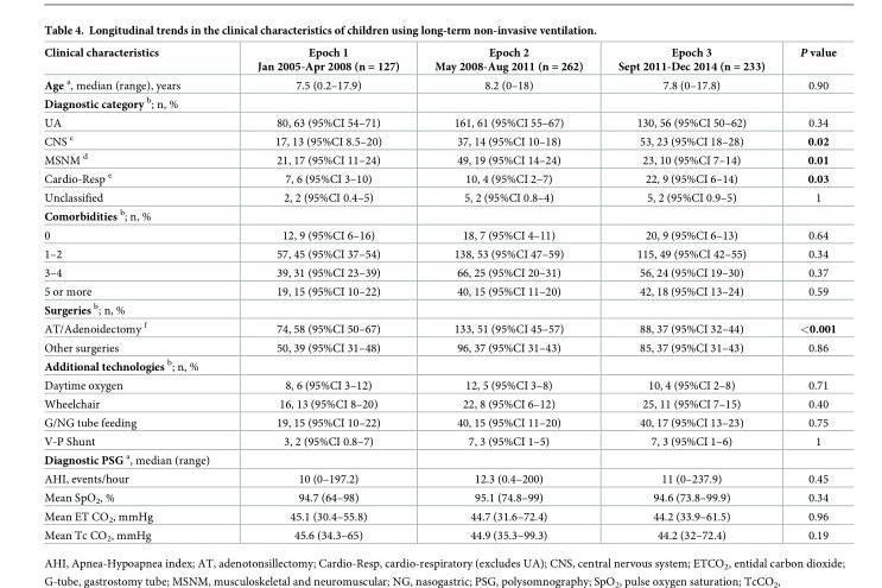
<table><thead><tr><td>Clinical characteristics</td><td>Epoch 1 Jan 2005-Apr 2008 (n = 127)</td><td>Epoch 2 May 2008-Aug 2011 (n = 262)</td><td>Epoch 3 Sept 2011-Dec 2014 (n = 233)</td><td>P value</td></tr></thead><tbody><tr><td>Age <sup>a</sup>, median (range), years</td><td>7.5 (0.2–17.9)</td><td>8.2 (0–18)</td><td>7.8 (0–17.8)</td><td>0.90</td></tr><tr><td colspan="5">Diagnostic category <sup>b</sup>; n, %</td></tr><tr><td>UA</td><td>80, 63 (95%CI 54–71)</td><td>161, 61 (95%CI 55–67)</td><td>130, 56 (95%CI 50–62)</td><td>0.34</td></tr><tr><td>CNS <sup>c</sup></td><td>17, 13 (95%CI 8.5–20)</td><td>37, 14 (95%CI 10–18)</td><td>53, 23 (95%CI 18–28)</td><td>0.02</td></tr><tr><td>MSNM <sup>d</sup></td><td>21, 17 (95%CI 11–24)</td><td>49, 19 (95%CI 14–24)</td><td>23, 10 (95%CI 7–14)</td><td>0.01</td></tr><tr><td>Cardio-Resp <sup>e</sup></td><td>7, 6 (95%CI 3–10)</td><td>10, 4 (95%CI 2–7)</td><td>22, 9 (95%CI 6–14)</td><td>0.03</td></tr><tr><td>Unclassified</td><td>2, 2 (95%CI 0.4–5)</td><td>5, 2 (95%CI 0.8–4)</td><td>5, 2 (95%CI 0.9–5)</td><td>1</td></tr><tr><td colspan="5">Comorbidities <sup>b</sup>; n, %</td></tr><tr><td>0</td><td>12, 9 (95%CI 6–16)</td><td>18, 7 (95%CI 4–11)</td><td>20, 9 (95%CI 6–13)</td><td>0.64</td></tr><tr><td>1–2</td><td>57, 45 (95%CI 37–54)</td><td>138, 53 (95%CI 47–59)</td><td>115, 49 (95%CI 42–55)</td><td>0.34</td></tr><tr><td>3–4</td><td>39, 31 (95%CI 23–39)</td><td>66, 25 (95%CI 20–31)</td><td>56, 24 (95%CI 19–30)</td><td>0.37</td></tr><tr><td>5 or more</td><td>19, 15 (95%CI 10–22)</td><td>40, 15 (95%CI 11–20)</td><td>42, 18 (95%CI 13–24)</td><td>0.59</td></tr><tr><td colspan="5">Surgeries <sup>b</sup>; n, %</td></tr><tr><td>AT/Adenoidectomy <sup>f</sup></td><td>74, 58 (95%CI 50–67)</td><td>133, 51 (95%CI 45–57)</td><td>88, 37 (95%CI 32–44)</td><td>&lt;0.001</td></tr><tr><td>Other surgeries</td><td>50, 39 (95%CI 31–48)</td><td>96, 37 (95%CI 31–43)</td><td>85, 37 (95%CI 31–43)</td><td>0.86</td></tr><tr><td colspan="5">Additional technologies <sup>b</sup>; n, %</td></tr><tr><td>Daytime oxygen</td><td>8, 6 (95%CI 3–12)</td><td>12, 5 (95%CI 3–8)</td><td>10, 4 (95%CI 2–8)</td><td>0.71</td></tr><tr><td>Wheelchair</td><td>16, 13 (95%CI 8–20)</td><td>22, 8 (95%CI 6–12)</td><td>25, 11 (95%CI 7–15)</td><td>0.40</td></tr><tr><td>G/NG tube feeding</td><td>19, 15 (95%CI 10–22)</td><td>40, 15 (95%CI 11–20)</td><td>40, 17 (95%CI 13–23)</td><td>0.75</td></tr><tr><td>V-P Shunt</td><td>3, 2 (95%CI 0.8–7)</td><td>7, 3 (95%CI 1–5)</td><td>7, 3 (95%CI 1–6)</td><td>1</td></tr><tr><td colspan="5">Diagnostic PSG <sup>a</sup>, median (range)</td></tr><tr><td>AHI, events/hour</td><td>10 (0–197.2)</td><td>12.3 (0.4–200)</td><td>11 (0–237.9)</td><td>0.45</td></tr><tr><td>Mean SpO<sub>2</sub>, %</td><td>94.7 (64–98)</td><td>95.1 (74.8–99)</td><td>94.6 (73.8–99.9)</td><td>0.34</td></tr><tr><td>Mean ET CO<sub>2</sub>, mmHg</td><td>45.1 (30.4–55.8)</td><td>44.7 (31.6–72.4)</td><td>44.2 (33.9–61.5)</td><td>0.96</td></tr><tr><td>Mean Tc CO<sub>2</sub>, mmHg</td><td>45.6 (34.3–65)</td><td>44.9 (35.3–99.3)</td><td>44.2 (32–72.4)</td><td>0.19</td></tr></tbody></table>